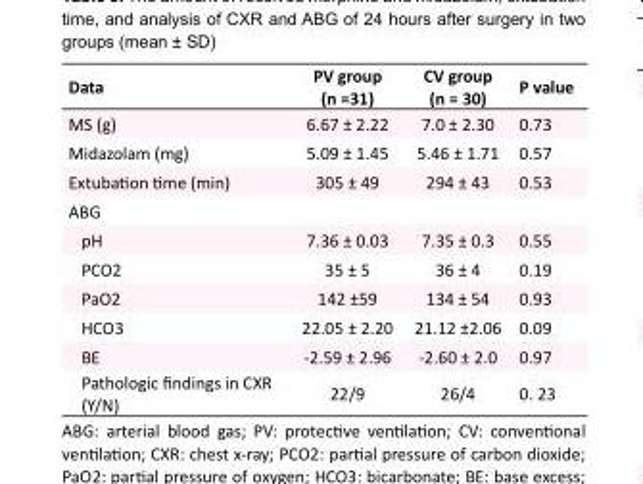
<table><tbody><tr><td>Data</td><td>PV group (n =31)</td><td>CV group (n = 30)</td><td>P value</td></tr><tr><td>MS (g)</td><td>6.67 ± 2.22</td><td>7.0 ± 2.30</td><td>0.73</td></tr><tr><td>Midazolam (mg)</td><td>5.09 ± 1.45</td><td>5.46 ± 1.71</td><td>0.57</td></tr><tr><td>Extubation time (min)</td><td>305 ± 49</td><td>294 ± 43</td><td>0.53</td></tr><tr><td colspan="4">ABG</td></tr><tr><td>pH</td><td>7.36 ± 0.03</td><td>7.35 ± 0.3</td><td>0.55</td></tr><tr><td>PCO2</td><td>35 ± 5</td><td>36 ± 4</td><td>0.19</td></tr><tr><td>PaO2</td><td>142 ±59</td><td>134 ± 54</td><td>0.93</td></tr><tr><td>HCO3</td><td>22.05 ± 2.20</td><td>21.12 ±2.06</td><td>0.09</td></tr><tr><td>BE</td><td>-2.59 ± 2.96</td><td>-2.60 ± 2.0</td><td>0.97</td></tr><tr><td>Pathologic findings in CXR (Y/N)</td><td>22/9</td><td>26/4</td><td>0. 23</td></tr></tbody></table>